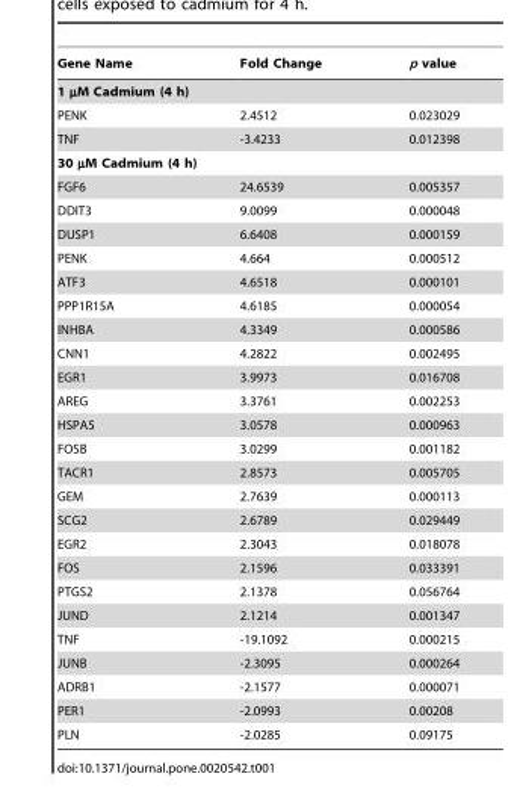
<table><thead><tr><td>Gene Name</td><td>Fold Change</td><td>p value</td></tr></thead><tbody><tr><td colspan="3">1 µM Cadmium (4 h)</td></tr><tr><td>PENK</td><td>2.4512</td><td>0.023029</td></tr><tr><td>TNF</td><td>-3.4233</td><td>0.012398</td></tr><tr><td colspan="3">30 µM Cadmium (4 h)</td></tr><tr><td>FGF6</td><td>24.6539</td><td>0.005357</td></tr><tr><td>DDIT3</td><td>9.0099</td><td>0.000048</td></tr><tr><td>DUSP1</td><td>6.6408</td><td>0.000159</td></tr><tr><td>PENK</td><td>4.664</td><td>0.000512</td></tr><tr><td>ATF3</td><td>4.6518</td><td>0.000101</td></tr><tr><td>PPP1R15A</td><td>4.6185</td><td>0.000054</td></tr><tr><td>INHBA</td><td>4.3349</td><td>0.000586</td></tr><tr><td>CNN1</td><td>4.2822</td><td>0.002495</td></tr><tr><td>EGR1</td><td>3.9973</td><td>0.016708</td></tr><tr><td>AREG</td><td>3.3761</td><td>0.002253</td></tr><tr><td>HSPA5</td><td>3.0578</td><td>0.000963</td></tr><tr><td>FOSB</td><td>3.0299</td><td>0.001182</td></tr><tr><td>TACR1</td><td>2.8573</td><td>0.005705</td></tr><tr><td>GEM</td><td>2.7639</td><td>0.000113</td></tr><tr><td>SCG2</td><td>2.6789</td><td>0.029449</td></tr><tr><td>EGR2</td><td>2.3043</td><td>0.018078</td></tr><tr><td>FOS</td><td>2.1596</td><td>0.033391</td></tr><tr><td>PTGS2</td><td>2.1378</td><td>0.056764</td></tr><tr><td>JUND</td><td>2.1214</td><td>0.001347</td></tr><tr><td>TNF</td><td>-19.1092</td><td>0.000215</td></tr><tr><td>JUNB</td><td>-2.3095</td><td>0.000264</td></tr><tr><td>ADRB1</td><td>-2.1577</td><td>0.000071</td></tr><tr><td>PER1</td><td>-2.0993</td><td>0.00208</td></tr><tr><td>PLN</td><td>-2.0285</td><td>0.09175</td></tr></tbody></table>